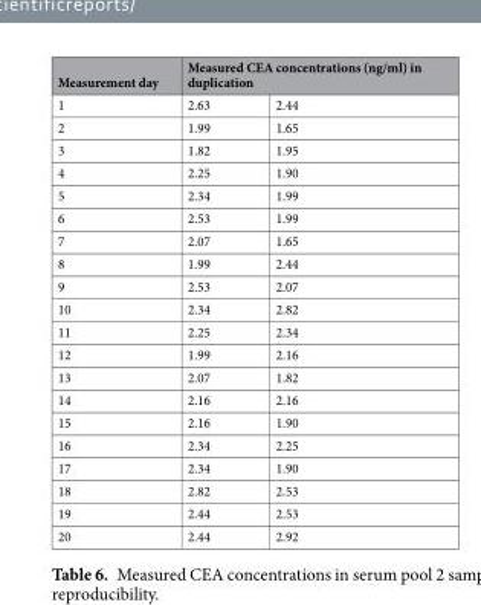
<table><thead><tr><td rowspan="2">Measurement day 1</td><td colspan="2">Measured CEA concentrations (ng/ml) in duplication</td></tr><tr><td>2.63</td><td>2.44</td></tr></thead><tbody><tr><td>2</td><td>1.99</td><td>1.65</td></tr><tr><td>3</td><td>1.82</td><td>1.95</td></tr><tr><td>4</td><td>2.25</td><td>1.90</td></tr><tr><td>5</td><td>2.34</td><td>1.99</td></tr><tr><td>6</td><td>2.53</td><td>1.99</td></tr><tr><td>7</td><td>2.07</td><td>1.65</td></tr><tr><td>8</td><td>1.99</td><td>2.44</td></tr><tr><td>9</td><td>2.53</td><td>2.07</td></tr><tr><td>10</td><td>2.34</td><td>2.82</td></tr><tr><td>11</td><td>2.25</td><td>2.34</td></tr><tr><td>12</td><td>1.99</td><td>2.16</td></tr><tr><td>13</td><td>2.07</td><td>1.82</td></tr><tr><td>14</td><td>2.16</td><td>2.16</td></tr><tr><td>15</td><td>2.16</td><td>1.90</td></tr><tr><td>16</td><td>2.34</td><td>2.25</td></tr><tr><td>17</td><td>2.34</td><td>1.90</td></tr><tr><td>18</td><td>2.82</td><td>2.53</td></tr><tr><td>19</td><td>2.44</td><td>2.53</td></tr><tr><td>20</td><td>2.44</td><td>2.92</td></tr></tbody></table>